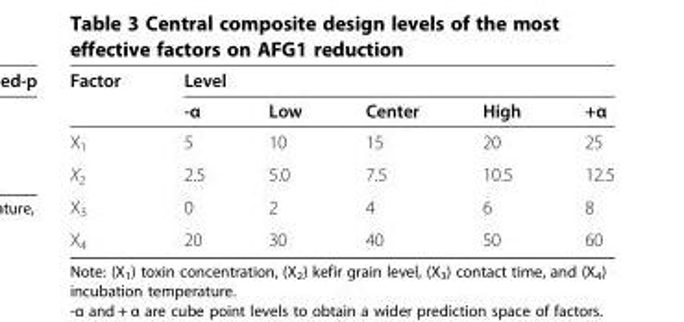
<table><thead><tr><td rowspan="2">Factor</td><td colspan="5">Level</td></tr><tr><td>-α</td><td>Low</td><td>Center</td><td>High</td><td>+α</td></tr></thead><tbody><tr><td>X<sub>1</sub></td><td>5</td><td>10</td><td>15</td><td>20</td><td>25</td></tr><tr><td>X<sub>2</sub></td><td>2.5</td><td>5.0</td><td>7.5</td><td>10.5</td><td>12.5</td></tr><tr><td>X<sub>3</sub></td><td>0</td><td>2</td><td>4</td><td>6</td><td>8</td></tr><tr><td>X<sub>4</sub></td><td>20</td><td>30</td><td>40</td><td>50</td><td>60</td></tr></tbody></table>